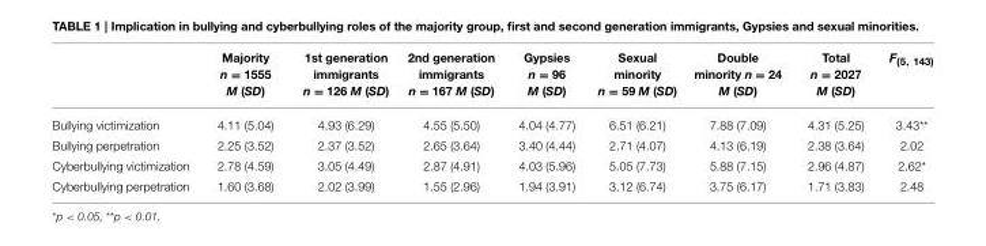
<table><thead><tr><td></td><td>Majority n = 1555 M (SD)</td><td>1st generation immigrants n = 126 M (SD)</td><td>2nd generation immigrants n = 167 M (SD)</td><td>Gypsies n = 96 M (SD)</td><td>Sexual minority n = 59 M (SD)</td><td>Double minority n = 24 M (SD)</td><td>Total n = 2027 M (SD)</td><td>F<sub>(5, 143)</sub></td></tr></thead><tbody><tr><td>Bullying victimization</td><td>4.11 (5.04)</td><td>4.93 (6.29)</td><td>4.55 (5.50)</td><td>4.04 (4.77)</td><td>6.51 (6.21)</td><td>7.88 (7.09)</td><td>4.31 (5.25)</td><td>3.43**</td></tr><tr><td>Bullying perpetration</td><td>2.25 (3.52)</td><td>2.37 (3.52)</td><td>2.65 (3.64)</td><td>3.40 (4.44)</td><td>2.71 (4.07)</td><td>4.13 (6.19)</td><td>2.38 (3.64)</td><td>2.02</td></tr><tr><td>Cyberbullying victimization</td><td>2.78 (4.59)</td><td>3.05 (4.49)</td><td>2.87 (4.91)</td><td>4.03 (5.96)</td><td>5.05 (7.73)</td><td>5.88 (7.15)</td><td>2.96 (4.87)</td><td>2.62*</td></tr><tr><td>Cyberbullying perpetration</td><td>1.60 (3.68)</td><td>2.02 (3.99)</td><td>1.55 (2.96)</td><td>1.94 (3.91)</td><td>3.12 (6.74)</td><td>3.75 (6.17)</td><td>1.71 (3.83)</td><td>2.48</td></tr></tbody></table>